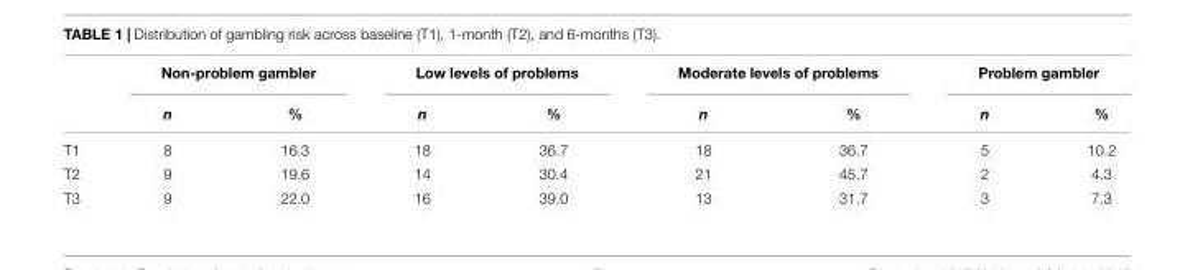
<table><thead><tr><td rowspan="2"></td><td colspan="2">Non-problem gambler</td><td colspan="2">Low levels of problems</td><td colspan="2">Moderate levels of problems</td><td colspan="2">Problem gambler</td></tr><tr><td>n</td><td>%</td><td>n</td><td>%</td><td>n</td><td>%</td><td>n</td><td>%</td></tr></thead><tbody><tr><td>T1</td><td>8</td><td>16.3</td><td>18</td><td>36.7</td><td>18</td><td>36.7</td><td>5</td><td>10.2</td></tr><tr><td>T2</td><td>9</td><td>19.6</td><td>14</td><td>30.4</td><td>21</td><td>45.7</td><td>2</td><td>4.3</td></tr><tr><td>T3</td><td>9</td><td>22.0</td><td>16</td><td>39.0</td><td>13</td><td>31.7</td><td>3</td><td>7.3</td></tr></tbody></table>